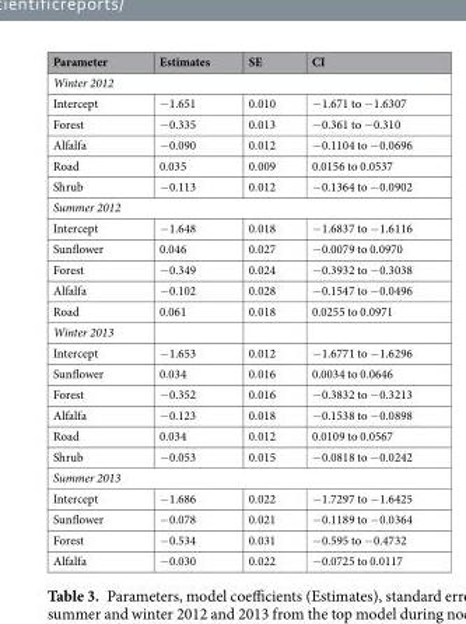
<table><thead><tr><td>Parameter</td><td>Estimates</td><td>SE</td><td>CI</td></tr></thead><tbody><tr><td colspan="4">Winter 2012</td></tr><tr><td>Intercept</td><td>−1.651</td><td>0.010</td><td>−1.671 to −1.6307</td></tr><tr><td>Forest</td><td>−0.335</td><td>0.013</td><td>−0.361 to −0.310</td></tr><tr><td>Alfalfa</td><td>−0.090</td><td>0.012</td><td>−0.1104 to −0.0696</td></tr><tr><td>Road</td><td>0.035</td><td>0.009</td><td>0.0156 to 0.0537</td></tr><tr><td>Shrub</td><td>−0.113</td><td>0.012</td><td>−0.1364 to −0.0902</td></tr><tr><td colspan="4">Summer 2012</td></tr><tr><td>Intercept</td><td>−1.648</td><td>0.018</td><td>−1.6837 to −1.6116</td></tr><tr><td>Sunflower</td><td>0.046</td><td>0.027</td><td>−0.0079 to 0.0970</td></tr><tr><td>Forest</td><td>−0.349</td><td>0.024</td><td>−0.3932 to −0.3038</td></tr><tr><td>Alfalfa</td><td>−0.102</td><td>0.028</td><td>−0.1547 to −0.0496</td></tr><tr><td>Road</td><td>0.061</td><td>0.018</td><td>0.0255 to 0.0971</td></tr><tr><td colspan="4">Winter 2013</td></tr><tr><td>Intercept</td><td>−1.653</td><td>0.012</td><td>−1.6771 to −1.6296</td></tr><tr><td>Sunflower</td><td>0.034</td><td>0.016</td><td>0.0034 to 0.0646</td></tr><tr><td>Forest</td><td>−0.352</td><td>0.016</td><td>−0.3832 to −0.3213</td></tr><tr><td>Alfalfa</td><td>−0.123</td><td>0.018</td><td>−0.1538 to −0.0898</td></tr><tr><td>Road</td><td>0.034</td><td>0.012</td><td>0.0109 to 0.0567</td></tr><tr><td>Shrub</td><td>−0.053</td><td>0.015</td><td>−0.0818 to −0.0242</td></tr><tr><td colspan="4">Summer 2013</td></tr><tr><td>Intercept</td><td>−1.686</td><td>0.022</td><td>−1.7297 to −1.6425</td></tr><tr><td>Sunflower</td><td>−0.078</td><td>0.021</td><td>−0.1189 to −0.0364</td></tr><tr><td>Forest</td><td>−0.534</td><td>0.031</td><td>−0.595 to −0.4732</td></tr><tr><td>Alfalfa</td><td>−0.030</td><td>0.022</td><td>−0.0725 to 0.0117</td></tr></tbody></table>